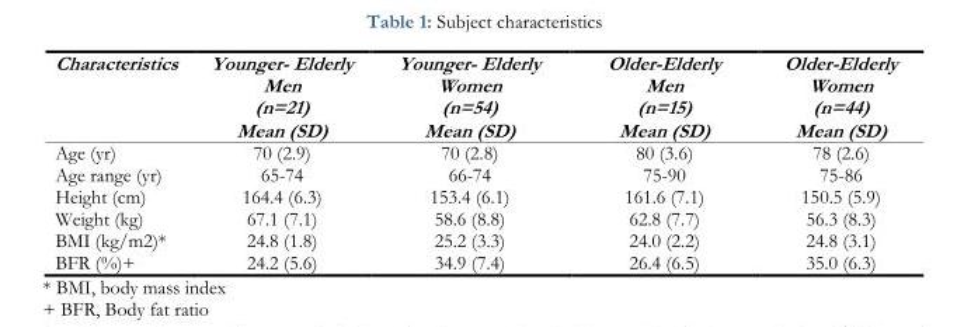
<table><thead><tr><td>Characteristics</td><td>Younger- Elderly Men (n=21) Mean (SD)</td><td>Younger- Elderly Women (n=54) Mean (SD)</td><td>Older-Elderly Men (n=15) Mean (SD)</td><td>Older-Elderly Women (n=44) Mean (SD)</td></tr></thead><tbody><tr><td>Age (yr)</td><td>70 (2.9)</td><td>70 (2.8)</td><td>80 (3.6)</td><td>78 (2.6)</td></tr><tr><td>Age range (yr)</td><td>65-74</td><td>66-74</td><td>75-90</td><td>75-86</td></tr><tr><td>Height (cm)</td><td>164.4 (6.3)</td><td>153.4 (6.1)</td><td>161.6 (7.1)</td><td>150.5 (5.9)</td></tr><tr><td>Weight (kg)</td><td>67.1 (7.1)</td><td>58.6 (8.8)</td><td>62.8 (7.7)</td><td>56.3 (8.3)</td></tr><tr><td>BMI (kg/m<sup>2</sup>)*</td><td>24.8 (1.8)</td><td>25.2 (3.3)</td><td>24.0 (2.2)</td><td>24.8 (3.1)</td></tr><tr><td>BFR (%)+</td><td>24.2 (5.6)</td><td>34.9 (7.4)</td><td>26.4 (6.5)</td><td>35.0 (6.3)</td></tr></tbody></table>